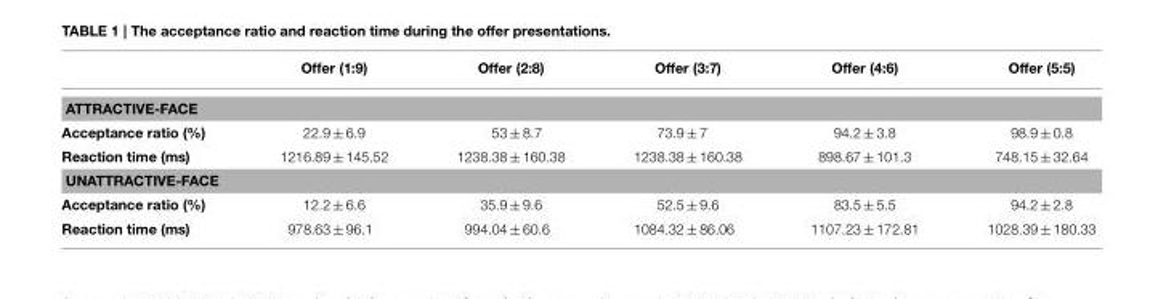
<table><thead><tr><td></td><td>Offer (1:9)</td><td>Offer (2:8)</td><td>Offer (3:7)</td><td>Offer (4:6)</td><td>Offer (5:5)</td></tr></thead><tbody><tr><td colspan="6">ATTRACTIVE-FACE</td></tr><tr><td>Acceptance ratio (%)</td><td>22.9 ± 6.9</td><td>53 ± 8.7</td><td>73.9 ± 7</td><td>94.2 ± 3.8</td><td>98.9 ± 0.8</td></tr><tr><td>Reaction time (ms)</td><td>1216.89 ± 145.52</td><td>1238.38 ± 160.38</td><td>1238.38 ± 160.38</td><td>898.67 ± 101.3</td><td>748.15 ± 32.64</td></tr><tr><td colspan="6">UNATTRACTIVE-FACE</td></tr><tr><td>Acceptance ratio (%)</td><td>12.2 ± 6.6</td><td>35.9 ± 9.6</td><td>52.5 ± 9.6</td><td>83.5 ± 5.5</td><td>94.2 ± 2.8</td></tr><tr><td>Reaction time (ms)</td><td>978.63 ± 96.1</td><td>994.04 ± 60.6</td><td>1084.32 ± 86.06</td><td>1107.23 ± 172.81</td><td>1028.39 ± 180.33</td></tr></tbody></table>